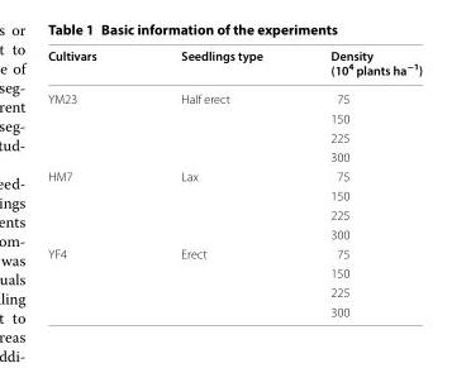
<table><thead><tr><td>Cultivars</td><td>Seedlings type</td><td>Density (10<sup>4</sup> plants ha<sup>−1</sup>)</td></tr></thead><tbody><tr><td rowspan="4">YM23</td><td rowspan="4">Half erect</td><td>75</td></tr><tr><td>150</td></tr><tr><td>225</td></tr><tr><td>300</td></tr><tr><td rowspan="4">HM7</td><td rowspan="4">Lax</td><td>75</td></tr><tr><td>150</td></tr><tr><td>225</td></tr><tr><td>300</td></tr><tr><td rowspan="4">YF4</td><td rowspan="4">Erect</td><td>75</td></tr><tr><td>150</td></tr><tr><td>225</td></tr><tr><td>300</td></tr></tbody></table>